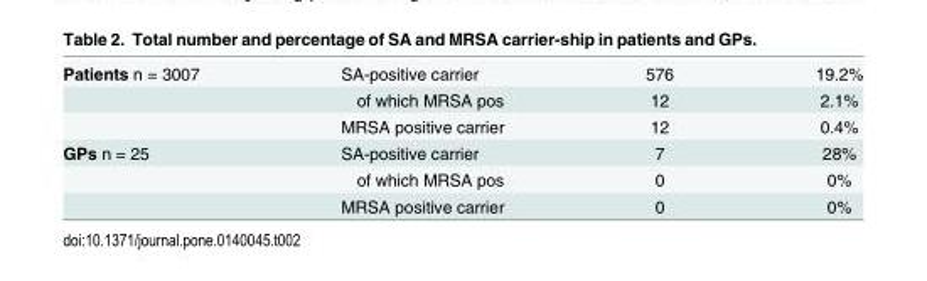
<table><tbody><tr><td rowspan="3">Patients n = 3007</td><td>SA-positive carrier</td><td>576</td><td>19.2%</td></tr><tr><td>of which MRSA pos</td><td>12</td><td>2.1%</td></tr><tr><td>MRSA positive carrier</td><td>12</td><td>0.4%</td></tr><tr><td rowspan="3">GPs n = 25</td><td>SA-positive carrier</td><td>7</td><td>28%</td></tr><tr><td>of which MRSA pos</td><td>0</td><td>0%</td></tr><tr><td>MRSA positive carrier</td><td>0</td><td>0%</td></tr></tbody></table>